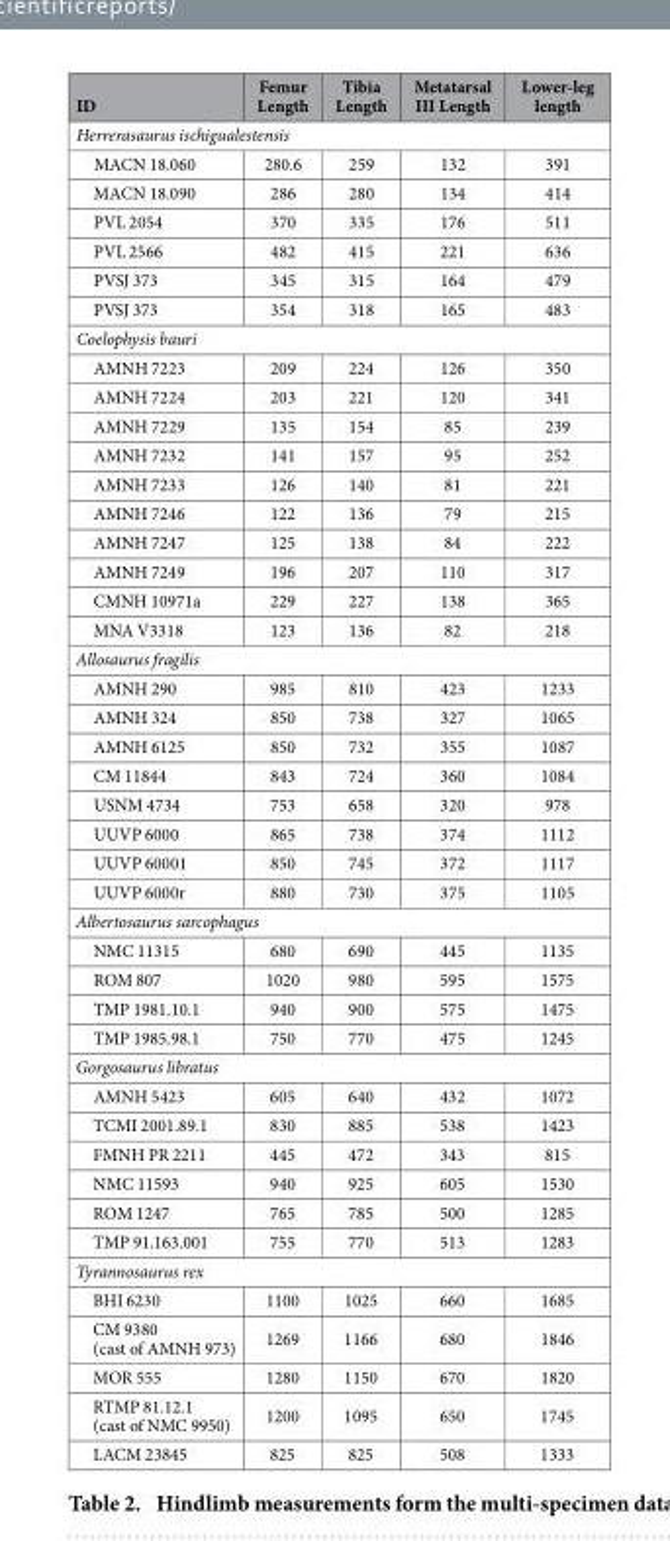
<table><thead><tr><td>ID</td><td>Femur Length</td><td>Tibia Length</td><td>Metatarsal III Length</td><td>Lower-leg length</td></tr></thead><tbody><tr><td colspan="5">Herrerasaurus ischigualestensis</td></tr><tr><td>MACN 18.060</td><td>280.6</td><td>259</td><td>132</td><td>391</td></tr><tr><td>MACN 18.090</td><td>286</td><td>280</td><td>134</td><td>414</td></tr><tr><td>PVL 2054</td><td>370</td><td>335</td><td>176</td><td>511</td></tr><tr><td>PVL 2566</td><td>482</td><td>415</td><td>221</td><td>636</td></tr><tr><td>PVSJ 373</td><td>345</td><td>315</td><td>164</td><td>479</td></tr><tr><td>PVSJ 373</td><td>354</td><td>318</td><td>165</td><td>483</td></tr><tr><td colspan="5">Coelophysis bauri</td></tr><tr><td>AMNH 7223</td><td>209</td><td>224</td><td>126</td><td>350</td></tr><tr><td>AMNH 7224</td><td>203</td><td>221</td><td>120</td><td>341</td></tr><tr><td>AMNH 7229</td><td>135</td><td>154</td><td>85</td><td>239</td></tr><tr><td>AMNH 7232</td><td>141</td><td>157</td><td>95</td><td>252</td></tr><tr><td>AMNH 7233</td><td>126</td><td>140</td><td>81</td><td>221</td></tr><tr><td>AMNH 7246</td><td>122</td><td>136</td><td>79</td><td>215</td></tr><tr><td>AMNH 7247</td><td>125</td><td>138</td><td>84</td><td>222</td></tr><tr><td>AMNH 7249</td><td>196</td><td>207</td><td>110</td><td>317</td></tr><tr><td>CMNH 10971a</td><td>229</td><td>227</td><td>138</td><td>365</td></tr><tr><td>MNA V3318</td><td>123</td><td>136</td><td>82</td><td>218</td></tr><tr><td colspan="5">Allosaurus fragilis</td></tr><tr><td>AMNH 290</td><td>985</td><td>810</td><td>423</td><td>1233</td></tr><tr><td>AMNH 324</td><td>850</td><td>738</td><td>327</td><td>1065</td></tr><tr><td>AMNH 6125</td><td>850</td><td>732</td><td>355</td><td>1087</td></tr><tr><td>CM 11844</td><td>843</td><td>724</td><td>360</td><td>1084</td></tr><tr><td>USNM 4734</td><td>753</td><td>658</td><td>320</td><td>978</td></tr><tr><td>UUVP 6000</td><td>865</td><td>738</td><td>374</td><td>1112</td></tr><tr><td>UUVP 60001</td><td>850</td><td>745</td><td>372</td><td>1117</td></tr><tr><td>UUVP 6000r</td><td>880</td><td>730</td><td>375</td><td>1105</td></tr><tr><td colspan="5">Albertosaurus sarcophagus</td></tr><tr><td>NMC 11315</td><td>680</td><td>690</td><td>445</td><td>1135</td></tr><tr><td>ROM 807</td><td>1020</td><td>980</td><td>595</td><td>1575</td></tr><tr><td>TMP 1981.10.1</td><td>940</td><td>900</td><td>575</td><td>1475</td></tr><tr><td>TMP 1985.98.1</td><td>750</td><td>770</td><td>475</td><td>1245</td></tr><tr><td colspan="5">Gorgosaurus libratus</td></tr><tr><td>AMNH 5423</td><td>605</td><td>640</td><td>432</td><td>1072</td></tr><tr><td>TCMI 2001.89.1</td><td>830</td><td>885</td><td>538</td><td>1423</td></tr><tr><td>FMNH PR 2211</td><td>445</td><td>472</td><td>343</td><td>815</td></tr><tr><td>NMC 11593</td><td>940</td><td>925</td><td>605</td><td>1530</td></tr><tr><td>ROM 1247</td><td>765</td><td>785</td><td>500</td><td>1285</td></tr><tr><td>TMP 91.163.001</td><td>755</td><td>770</td><td>513</td><td>1283</td></tr><tr><td colspan="5">Tyrannosaurus rex</td></tr><tr><td>BHI 6230</td><td>1100</td><td>1025</td><td>660</td><td>1685</td></tr><tr><td>CM 9380 (cast of AMNH 973)</td><td>1269</td><td>1166</td><td>680</td><td>1846</td></tr><tr><td>MOR 555</td><td>1280</td><td>1150</td><td>670</td><td>1820</td></tr><tr><td>RTMP 81.12.1 (cast of NMC 9950)</td><td>1200</td><td>1095</td><td>650</td><td>1745</td></tr><tr><td>LACM 23845</td><td>825</td><td>825</td><td>508</td><td>1333</td></tr></tbody></table>